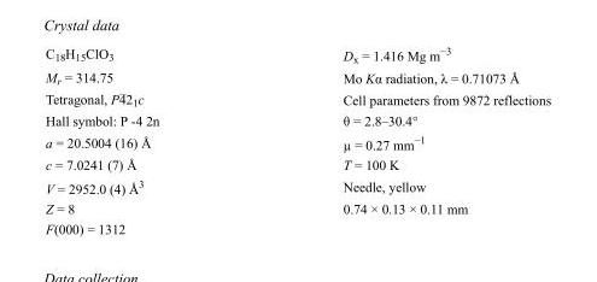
<table><tbody><tr><td>C<sub>18</sub>H<sub>15</sub>ClO<sub>3</sub></td><td>D<sub>x</sub> = 1.416 Mg m<sup>−3</sup></td></tr><tr><td>M<sub>r</sub> = 314.75</td><td>Mo Kα radiation, λ = 0.71073 Å</td></tr><tr><td>Tetragonal, P42<sub>1</sub>c</td><td>Cell parameters from 9872 reflections</td></tr><tr><td>Hall symbol: P -4 2n</td><td>θ = 2.8–30.4°</td></tr><tr><td>a = 20.5004 (16) Å</td><td>µ = 0.27 mm<sup>−1</sup></td></tr><tr><td>c = 7.0241 (7) Å</td><td>T = 100 K</td></tr><tr><td>V = 2952.0 (4) Å<sup>3</sup></td><td>Needle, yellow</td></tr><tr><td>Z = 8</td><td>0.74 × 0.13 × 0.11 mm</td></tr><tr><td>F(000) = 1312</td><td></td></tr></tbody></table>